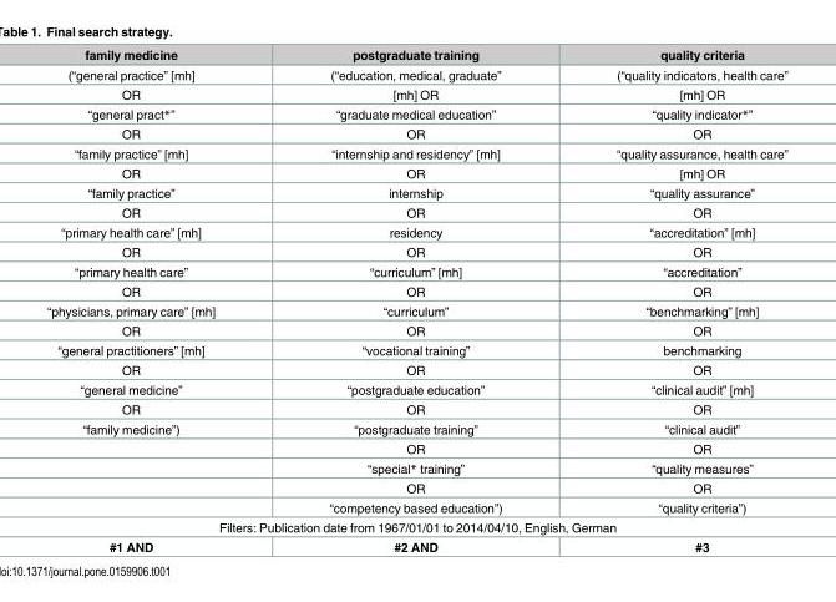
<table><thead><tr><td>family medicine</td><td>postgraduate training</td><td>quality criteria</td></tr></thead><tbody><tr><td>(“general practice” [mh]</td><td>(“education, medical, graduate”</td><td>(“quality indicators, health care”</td></tr><tr><td>OR</td><td>[mh] OR</td><td>[mh] OR</td></tr><tr><td>“general pract*”</td><td>“graduate medical education”</td><td>“quality indicator*”</td></tr><tr><td>OR</td><td>OR</td><td>OR</td></tr><tr><td>“family practice” [mh]</td><td>“internship and residency” [mh]</td><td>“quality assurance, health care”</td></tr><tr><td>OR</td><td>OR</td><td>[mh] OR</td></tr><tr><td>“family practice”</td><td>internship</td><td>“quality assurance”</td></tr><tr><td>OR</td><td>OR</td><td>OR</td></tr><tr><td>“primary health care” [mh]</td><td>residency</td><td>“accreditation” [mh]</td></tr><tr><td>OR</td><td>OR</td><td>OR</td></tr><tr><td>“primary health care”</td><td>“curriculum” [mh]</td><td>“accreditation”</td></tr><tr><td>OR</td><td>OR</td><td>OR</td></tr><tr><td>“physicians, primary care” [mh]</td><td>“curriculum”</td><td>“benchmarking” [mh]</td></tr><tr><td>OR</td><td>OR</td><td>OR</td></tr><tr><td>“general practitioners” [mh]</td><td>“vocational training”</td><td>benchmarking</td></tr><tr><td>OR</td><td>OR</td><td>OR</td></tr><tr><td>“general medicine”</td><td>“postgraduate education”</td><td>“clinical audit” [mh]</td></tr><tr><td>OR</td><td>OR</td><td>OR</td></tr><tr><td rowspan="5">“family medicine”)</td><td>“postgraduate training”</td><td>“clinical audit”</td></tr><tr><td>OR</td><td>OR</td></tr><tr><td>“special* training”</td><td>“quality measures”</td></tr><tr><td>OR</td><td>OR</td></tr><tr><td>“competency based education”)</td><td>“quality criteria”)</td></tr><tr><td colspan="3">Filters: Publication date from 1967/01/01 to 2014/04/10, English, German</td></tr><tr><td>#1 AND</td><td>#2 AND</td><td>#3</td></tr></tbody></table>